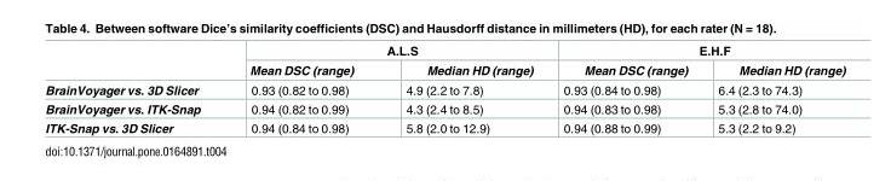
<table><thead><tr><td rowspan="2"></td><td colspan="2">A.L.S</td><td colspan="2">E.H.F</td></tr><tr><td>Mean DSC (range)</td><td>Median HD (range)</td><td>Mean DSC (range)</td><td>Median HD (range)</td></tr></thead><tbody><tr><td>BrainVoyager vs. 3D Slicer</td><td>0.93 (0.82 to 0.98)</td><td>4.9 (2.2 to 7.8)</td><td>0.93 (0.84 to 0.98)</td><td>6.4 (2.3 to 74.3)</td></tr><tr><td>BrainVoyager vs. ITK-Snap</td><td>0.94 (0.82 to 0.99)</td><td>4.3 (2.4 to 8.5)</td><td>0.94 (0.83 to 0.98)</td><td>5.3 (2.8 to 74.0)</td></tr><tr><td>ITK-Snap vs. 3D Slicer</td><td>0.94 (0.84 to 0.98)</td><td>5.8 (2.0 to 12.9)</td><td>0.94 (0.88 to 0.99)</td><td>5.3 (2.2 to 9.2)</td></tr></tbody></table>